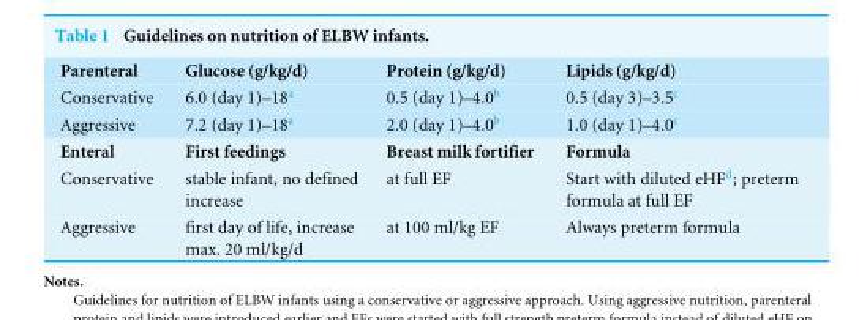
<table><tbody><tr><td>Parenteral</td><td>Glucose (g/kg/d)</td><td>Protein (g/kg/d)</td><td>Lipids (g/kg/d)</td></tr><tr><td>Conservative</td><td>6.0 (day 1)–18<sup>a</sup></td><td>0.5 (day 1)–4.0<sup>b</sup></td><td>0.5 (day 3)–3.5<sup>c</sup></td></tr><tr><td>Aggressive</td><td>7.2 (day 1)–18<sup>a</sup></td><td>2.0 (day 1)–4.0<sup>b</sup></td><td>1.0 (day 1)–4.0<sup>c</sup></td></tr><tr><td>Enteral</td><td>First feedings</td><td>Breast milk fortifier</td><td>Formula</td></tr><tr><td>Conservative</td><td>stable infant, no defined increase</td><td>at full EF</td><td>Start with diluted eHF<sup>d</sup>; preterm formula at full EF</td></tr><tr><td>Aggressive</td><td>first day of life, increase max. 20 ml/kg/d</td><td>at 100 ml/kg EF</td><td>Always preterm formula</td></tr></tbody></table>